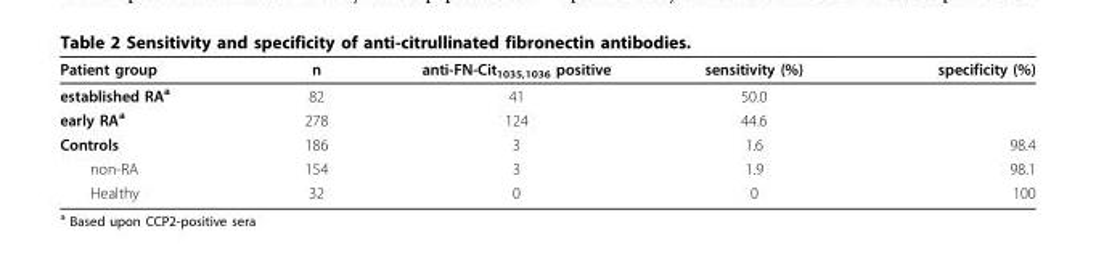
<table><thead><tr><td>Patient group</td><td>n</td><td>anti-FN-Cit<sub>1035,1036</sub> positive</td><td>sensitivity (%)</td><td>specificity (%)</td></tr></thead><tbody><tr><td>established RA<sup>a</sup></td><td>82</td><td>41</td><td>50.0</td><td></td></tr><tr><td>early RA<sup>a</sup></td><td>278</td><td>124</td><td>44.6</td><td></td></tr><tr><td>Controls</td><td>186</td><td>3</td><td>1.6</td><td>98.4</td></tr><tr><td>non-RA</td><td>154</td><td>3</td><td>1.9</td><td>98.1</td></tr><tr><td>Healthy</td><td>32</td><td>0</td><td>0</td><td>100</td></tr></tbody></table>